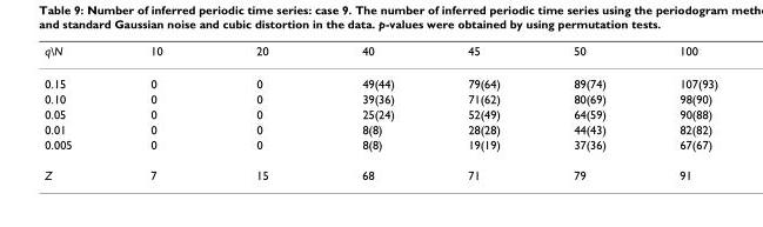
<table><thead><tr><td>q\N</td><td>10</td><td>20</td><td>40</td><td>45</td><td>50</td><td>100</td></tr></thead><tbody><tr><td>0.15</td><td>0</td><td>0</td><td>49(44)</td><td>79(64)</td><td>89(74)</td><td>107(93)</td></tr><tr><td>0.10</td><td>0</td><td>0</td><td>39(36)</td><td>71(62)</td><td>80(69)</td><td>98(90)</td></tr><tr><td>0.05</td><td>0</td><td>0</td><td>25(24)</td><td>52(49)</td><td>64(59)</td><td>90(88)</td></tr><tr><td>0.01</td><td>0</td><td>0</td><td>8(8)</td><td>28(28)</td><td>44(43)</td><td>82(82)</td></tr><tr><td>0.005</td><td>0</td><td>0</td><td>8(8)</td><td>19(19)</td><td>37(36)</td><td>67(67)</td></tr><tr><td>Z</td><td>7</td><td>15</td><td>68</td><td>71</td><td>79</td><td>91</td></tr></tbody></table>